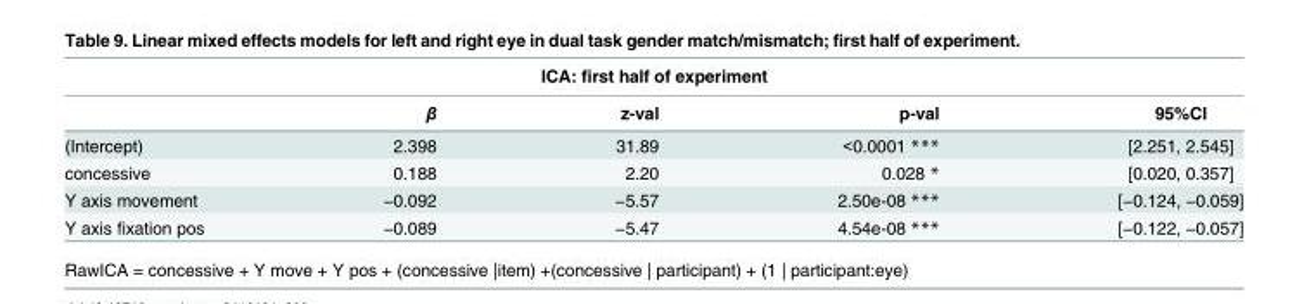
<table><thead><tr><td colspan="5">ICA: first half of experiment</td></tr><tr><td></td><td>β</td><td>z-val</td><td>p-val</td><td>95%CI</td></tr></thead><tbody><tr><td>(Intercept)</td><td>2.398</td><td>31.89</td><td>&lt;0.0001 ***</td><td>[2.251, 2.545]</td></tr><tr><td>concessive</td><td>0.188</td><td>2.20</td><td>0.028 *</td><td>[0.020, 0.357]</td></tr><tr><td>Y axis movement</td><td>−0.092</td><td>−5.57</td><td>2.50e-08 ***</td><td>[−0.124, −0.059]</td></tr><tr><td>Y axis fixation pos</td><td>−0.089</td><td>−5.47</td><td>4.54e-08 ***</td><td>[−0.122, −0.057]</td></tr></tbody></table>